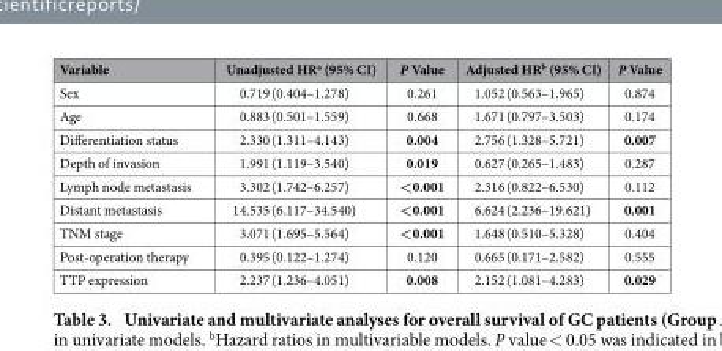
<table><thead><tr><td>Variable</td><td>Unadjusted HR<sup>a</sup> (95% CI)</td><td>P Value</td><td>Adjusted HR<sup>b</sup> (95% CI)</td><td>P Value</td></tr></thead><tbody><tr><td>Sex</td><td>0.719 (0.404–1.278)</td><td>0.261</td><td>1.052 (0.563–1.965)</td><td>0.874</td></tr><tr><td>Age</td><td>0.883 (0.501–1.559)</td><td>0.668</td><td>1.671 (0.797–3.503)</td><td>0.174</td></tr><tr><td>Differentiation status</td><td>2.330 (1.311–4.143)</td><td>0.004</td><td>2.756 (1.328–5.721)</td><td>0.007</td></tr><tr><td>Depth of invasion</td><td>1.991 (1.119–3.540)</td><td>0.019</td><td>0.627 (0.265–1.483)</td><td>0.287</td></tr><tr><td>Lymph node metastasis</td><td>3.302 (1.742–6.257)</td><td>&lt;0.001</td><td>2.316 (0.822–6.530)</td><td>0.112</td></tr><tr><td>Distant metastasis</td><td>14.535 (6.117–34.540)</td><td>&lt;0.001</td><td>6.624 (2.236–19.621)</td><td>0.001</td></tr><tr><td>TNM stage</td><td>3.071 (1.695–5.564)</td><td>&lt;0.001</td><td>1.648 (0.510–5.328)</td><td>0.404</td></tr><tr><td>Post-operation therapy</td><td>0.395 (0.122–1.274)</td><td>0.120</td><td>0.665 (0.171–2.582)</td><td>0.555</td></tr><tr><td>TTP expression</td><td>2.237 (1.236–4.051)</td><td>0.008</td><td>2.152 (1.081–4.283)</td><td>0.029</td></tr></tbody></table>